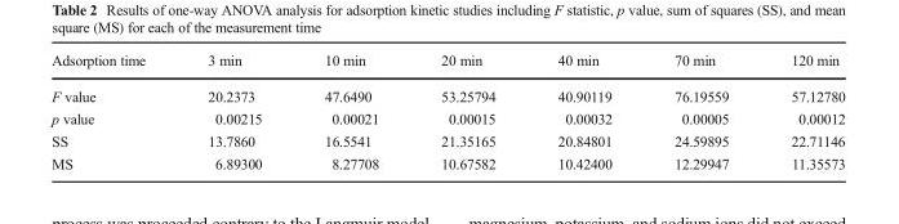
<table><thead><tr><td>Adsorption time</td><td>3 min</td><td>10 min</td><td>20 min</td><td>40 min</td><td>70 min</td><td>120 min</td></tr></thead><tbody><tr><td>F value</td><td>20.2373</td><td>47.6490</td><td>53.25794</td><td>40.90119</td><td>76.19559</td><td>57.12780</td></tr><tr><td>p value</td><td>0.00215</td><td>0.00021</td><td>0.00015</td><td>0.00032</td><td>0.00005</td><td>0.00012</td></tr><tr><td>SS</td><td>13.7860</td><td>16.5541</td><td>21.35165</td><td>20.84801</td><td>24.59895</td><td>22.71146</td></tr><tr><td>MS</td><td>6.89300</td><td>8.27708</td><td>10.67582</td><td>10.42400</td><td>12.29947</td><td>11.35573</td></tr></tbody></table>